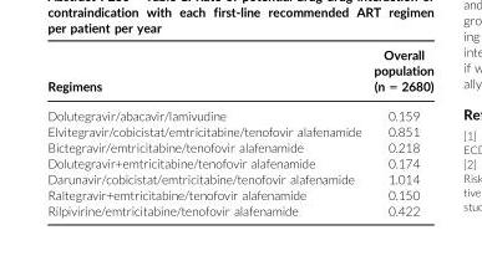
<table><thead><tr><td>Regimens</td><td>Overall population (n = 2680)</td></tr></thead><tbody><tr><td>Dolutegravir/abacavir/lamivudine</td><td>0.159</td></tr><tr><td>Elvitegravir/cobicistat/emtricitabine/tenofovir alafenamide</td><td>0.851</td></tr><tr><td>Bictegravir/emtricitabine/tenofovir alafenamide</td><td>0.218</td></tr><tr><td>Dolutegravir+emtricitabine/tenofovir alafenamide</td><td>0.174</td></tr><tr><td>Darunavir/cobicistat/emtricitabine/tenofovir alafenamide</td><td>1.014</td></tr><tr><td>Raltegravir+emtricitabine/tenofovir alafenamide</td><td>0.150</td></tr><tr><td>Rilpivirine/emtricitabine/tenofovir alafenamide</td><td>0.422</td></tr></tbody></table>